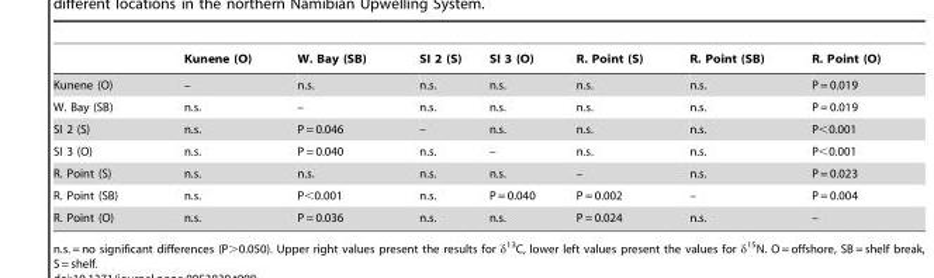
<table><thead><tr><td></td><td>Kunene (O)</td><td>W. Bay (SB)</td><td>SI 2 (S)</td><td>SI 3 (O)</td><td>R. Point (S)</td><td>R. Point (SB)</td><td>R. Point (O)</td></tr></thead><tbody><tr><td>Kunene (O)</td><td>–</td><td>n.s.</td><td>n.s.</td><td>n.s.</td><td>n.s.</td><td>n.s.</td><td>P = 0.019</td></tr><tr><td>W. Bay (SB)</td><td>n.s.</td><td>–</td><td>n.s.</td><td>n.s.</td><td>n.s.</td><td>n.s.</td><td>P = 0.019</td></tr><tr><td>SI 2 (S)</td><td>n.s.</td><td>P = 0.046</td><td>–</td><td>n.s.</td><td>n.s.</td><td>n.s.</td><td>P&lt;0.001</td></tr><tr><td>SI 3 (O)</td><td>n.s.</td><td>P = 0.040</td><td>n.s.</td><td>–</td><td>n.s.</td><td>n.s.</td><td>P&lt;0.001</td></tr><tr><td>R. Point (S)</td><td>n.s.</td><td>n.s.</td><td>n.s.</td><td>n.s.</td><td>–</td><td>n.s.</td><td>P = 0.023</td></tr><tr><td>R. Point (SB)</td><td>n.s.</td><td>P&lt;0.001</td><td>n.s.</td><td>P = 0.040</td><td>P = 0.002</td><td>–</td><td>P = 0.004</td></tr><tr><td>R. Point (O)</td><td>n.s.</td><td>P = 0.036</td><td>n.s.</td><td>n.s.</td><td>P = 0.024</td><td>n.s.</td><td>–</td></tr></tbody></table>